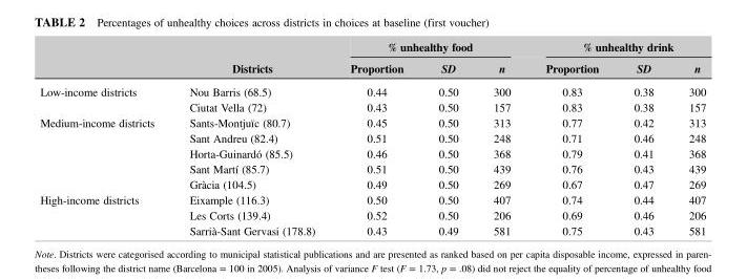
<table><thead><tr><td rowspan="2"></td><td rowspan="2">Districts</td><td colspan="3">% unhealthy food</td><td colspan="3">% unhealthy drink</td></tr><tr><td>Proportion</td><td>SD</td><td>n</td><td>Proportion</td><td>SD</td><td>n</td></tr></thead><tbody><tr><td rowspan="2">Low‐income districts</td><td>Nou Barris (68.5)</td><td>0.44</td><td>0.50</td><td>300</td><td>0.83</td><td>0.38</td><td>300</td></tr><tr><td>Ciutat Vella (72)</td><td>0.43</td><td>0.50</td><td>157</td><td>0.83</td><td>0.38</td><td>157</td></tr><tr><td rowspan="5">Medium‐income districts</td><td>Sants‐Montjuïc (80.7)</td><td>0.45</td><td>0.50</td><td>313</td><td>0.77</td><td>0.42</td><td>313</td></tr><tr><td>Sant Andreu (82.4)</td><td>0.51</td><td>0.50</td><td>248</td><td>0.71</td><td>0.46</td><td>248</td></tr><tr><td>Horta‐Guinardó (85.5)</td><td>0.46</td><td>0.50</td><td>368</td><td>0.79</td><td>0.41</td><td>368</td></tr><tr><td>Sant Martí (85.7)</td><td>0.51</td><td>0.50</td><td>439</td><td>0.76</td><td>0.43</td><td>439</td></tr><tr><td>Gràcia (104.5)</td><td>0.49</td><td>0.50</td><td>269</td><td>0.67</td><td>0.47</td><td>269</td></tr><tr><td rowspan="3">High‐income districts</td><td>Eixample (116.3)</td><td>0.50</td><td>0.50</td><td>407</td><td>0.74</td><td>0.44</td><td>407</td></tr><tr><td>Les Corts (139.4)</td><td>0.52</td><td>0.50</td><td>206</td><td>0.69</td><td>0.46</td><td>206</td></tr><tr><td>Sarrià‐Sant Gervasi (178.8)</td><td>0.43</td><td>0.49</td><td>581</td><td>0.75</td><td>0.43</td><td>581</td></tr></tbody></table>